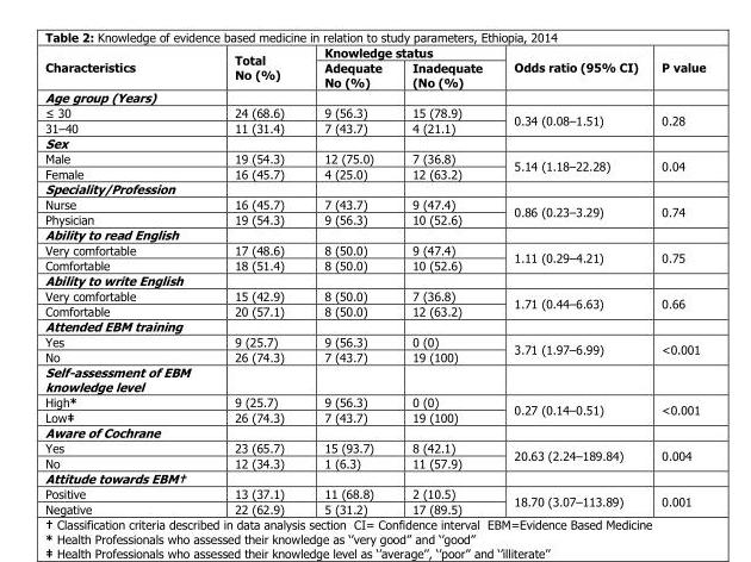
<table><thead><tr><td rowspan="2">Characteristics</td><td rowspan="2">Total No (%)</td><td colspan="2">Knowledge status</td><td rowspan="2">Odds ratio (95% CI)</td><td rowspan="2">P value</td></tr><tr><td>Adequate No (%)</td><td>Inadequate (No (%)</td></tr></thead><tbody><tr><td colspan="6">Age group (Years)</td></tr><tr><td>≤ 30</td><td>24 (68.6)</td><td>9 (56.3)</td><td>15 (78.9)</td><td rowspan="2">0.34 (0.08‒1.51)</td><td rowspan="2">0.28</td></tr><tr><td>31‒40</td><td>11 (31.4)</td><td>7 (43.7)</td><td>4 (21.1)</td></tr><tr><td colspan="6">Sex</td></tr><tr><td>Male</td><td>19 (54.3)</td><td>12 (75.0)</td><td>7 (36.8)</td><td rowspan="2">5.14 (1.18‒22.28)</td><td rowspan="2">0.04</td></tr><tr><td>Female</td><td>16 (45.7)</td><td>4 (25.0)</td><td>12 (63.2)</td></tr><tr><td colspan="6">Speciality/Profession</td></tr><tr><td>Nurse</td><td>16 (45.7)</td><td>7 (43.7)</td><td>9 (47.4)</td><td rowspan="2">0.86 (0.23‒3.29)</td><td rowspan="2">0.74</td></tr><tr><td>Physician</td><td>19 (54.3)</td><td>9 (56.3)</td><td>10 (52.6)</td></tr><tr><td colspan="6">Ability to read English</td></tr><tr><td>Very comfortable</td><td>17 (48.6)</td><td>8 (50.0)</td><td>9 (47.4)</td><td rowspan="2">1.11 (0.29‒4.21)</td><td rowspan="2">0.75</td></tr><tr><td>Comfortable</td><td>18 (51.4)</td><td>8 (50.0)</td><td>10 (52.6)</td></tr><tr><td colspan="6">Ability to write English</td></tr><tr><td>Very comfortable</td><td>15 (42.9)</td><td>8 (50.0)</td><td>7 (36.8)</td><td rowspan="2">1.71 (0.44‒6.63)</td><td rowspan="2">0.66</td></tr><tr><td>Comfortable</td><td>20 (57.1)</td><td>8 (50.0)</td><td>12 (63.2)</td></tr><tr><td colspan="6">Attended EBM training</td></tr><tr><td>Yes</td><td>9 (25.7)</td><td>9 (56.3)</td><td>0 (0)</td><td rowspan="2">3.71 (1.97–6.99)</td><td rowspan="2">&lt;0.001</td></tr><tr><td>No</td><td>26 (74.3)</td><td>7 (43.7)</td><td>19 (100)</td></tr><tr><td colspan="6">Self-assessment of EBM knowledge level</td></tr><tr><td>High*</td><td>9 (25.7)</td><td>9 (56.3)</td><td>0 (0)</td><td rowspan="2">0.27 (0.14–0.51)</td><td rowspan="2">&lt;0.001</td></tr><tr><td>Low‡</td><td>26 (74.3)</td><td>7 (43.7)</td><td>19 (100)</td></tr><tr><td colspan="6">Aware of Cochrane</td></tr><tr><td>Yes</td><td>23 (65.7)</td><td>15 (93.7)</td><td>8 (42.1)</td><td rowspan="2">20.63 (2.24–189.84)</td><td rowspan="2">0.004</td></tr><tr><td>No</td><td>12 (34.3)</td><td>1 (6.3)</td><td>11 (57.9)</td></tr><tr><td colspan="6">Attitude towards EBM†</td></tr><tr><td>Positive</td><td>13 (37.1)</td><td>11 (68.8)</td><td>2 (10.5)</td><td rowspan="2">18.70 (3.07‒113.89)</td><td rowspan="2">0.001</td></tr><tr><td>Negative</td><td>22 (62.9)</td><td>5 (31.2)</td><td>17 (89.5)</td></tr></tbody></table>